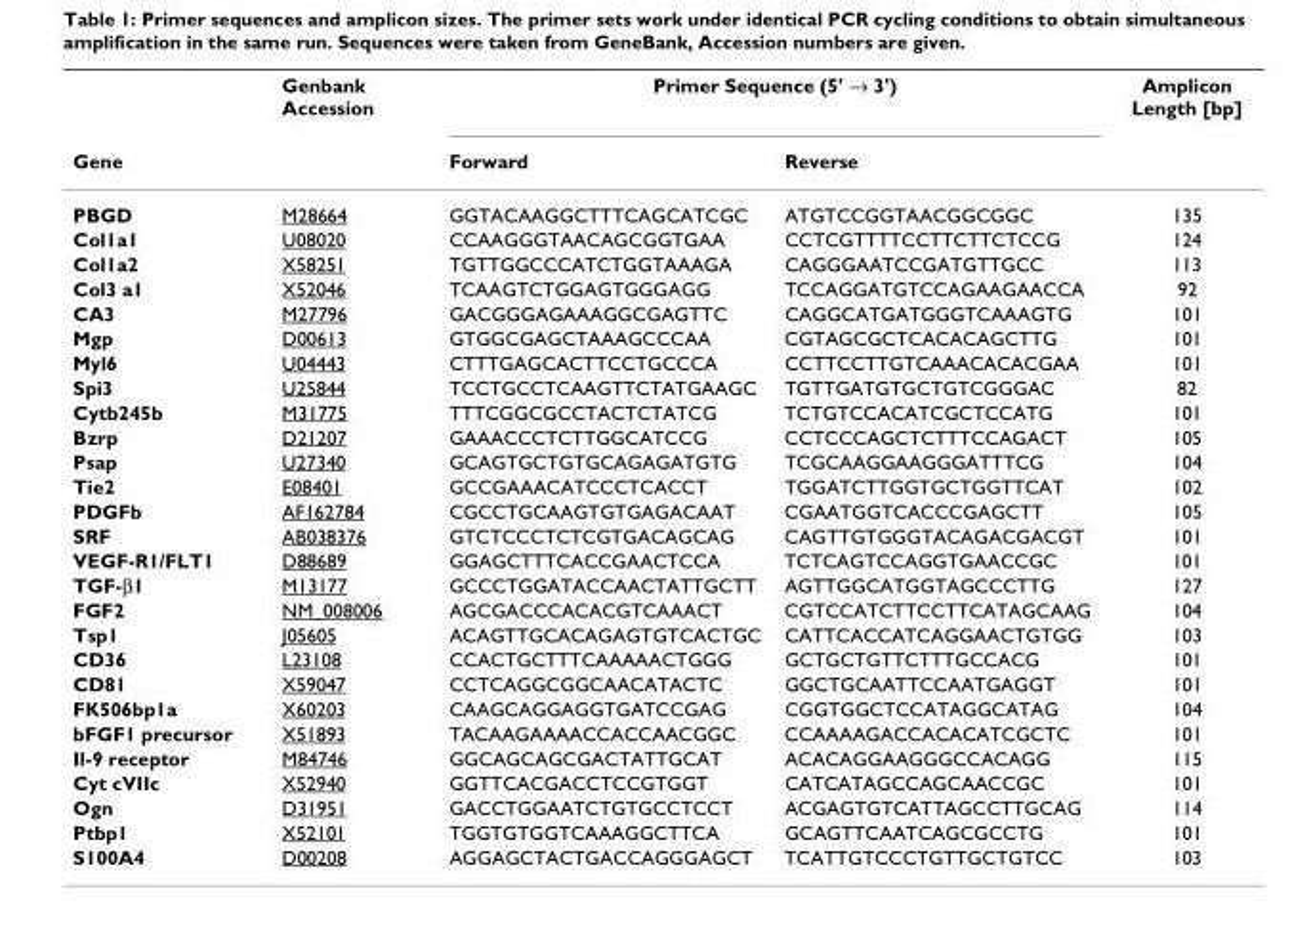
<table><thead><tr><td rowspan="2">Gene</td><td rowspan="2">Genbank Accession</td><td colspan="2">Primer Sequence (5&#x27; → 3&#x27;)</td><td rowspan="2">Amplicon Length [bp]</td></tr><tr><td>Forward</td><td>Reverse</td></tr></thead><tbody><tr><td>PBGD</td><td>M28664</td><td>GGTACAAGGCTTTCAGCATCGC</td><td>ATGTCCGGTAACGGCGGC</td><td>135</td></tr><tr><td>Col1a1</td><td>U08020</td><td>CCAAGGGTAACAGCGGTGAA</td><td>CCTCGTTTTCCTTCTTCTCCG</td><td>124</td></tr><tr><td>Col1a2</td><td>X58251</td><td>TGTTGGCCCATCTGGTAAAGA</td><td>CAGGGAATCCGATGTTGCC</td><td>113</td></tr><tr><td>Col3 a1</td><td>X52046</td><td>TCAAGTCTGGAGTGGGAGG</td><td>TCCAGGATGTCCAGAAGAACCA</td><td>92</td></tr><tr><td>CA3</td><td>M27796</td><td>GACGGGAGAAAGGCGAGTTC</td><td>CAGGCATGATGGGTCAAAGTG</td><td>101</td></tr><tr><td>Mgp</td><td>D00613</td><td>GTGGCGAGCTAAAGCCCAA</td><td>CGTAGCGCTCACACAGCTTG</td><td>101</td></tr><tr><td>Myl6</td><td>U04443</td><td>CTTTGAGCACTTCCTGCCCA</td><td>CCTTCCTTGTCAAACACACGAA</td><td>101</td></tr><tr><td>Spi3</td><td>U25844</td><td>TCCTGCCTCAAGTTCTATGAAGC</td><td>TGTTGATGTGCTGTCGGGAC</td><td>82</td></tr><tr><td>Cytb245b</td><td>M31775</td><td>TTTCGGCGCCTACTCTATCG</td><td>TCTGTCCACATCGCTCCATG</td><td>101</td></tr><tr><td>Bzrp</td><td>D21207</td><td>GAAACCCTCTTGGCATCCG</td><td>CCTCCCAGCTCTTTCCAGACT</td><td>105</td></tr><tr><td>Psap</td><td>U27340</td><td>GCAGTGCTGTGCAGAGATGTG</td><td>TCGCAAGGAAGGGATTTCG</td><td>104</td></tr><tr><td>Tie2</td><td>E08401</td><td>GCCGAAACATCCCTCACCT</td><td>TGGATCTTGGTGCTGGTTCAT</td><td>102</td></tr><tr><td>PDGFb</td><td>AF162784</td><td>CGCCTGCAAGTGTGAGACAAT</td><td>CGAATGGTCACCCGAGCTT</td><td>105</td></tr><tr><td>SRF</td><td>AB038376</td><td>GTCTCCCTCTCGTGACAGCAG</td><td>CAGTTGTGGGTACAGACGACGT</td><td>101</td></tr><tr><td>VEGF-R1/FLT1</td><td>D88689</td><td>GGAGCTTTCACCGAACTCCA</td><td>TCTCAGTCCAGGTGAACCGC</td><td>101</td></tr><tr><td>TGF-β1</td><td>M13177</td><td>GCCCTGGATACCAACTATTGCTT</td><td>AGTTGGCATGGTAGCCCTTG</td><td>127</td></tr><tr><td>FGF2</td><td>NM_008006</td><td>AGCGACCCACACGTCAAACT</td><td>CGTCCATCTTCCTTCATAGCAAG</td><td>104</td></tr><tr><td>Tsp1</td><td>J05605</td><td>ACAGTTGCACAGAGTGTCACTGC</td><td>CATTCACCATCAGGAACTGTGG</td><td>103</td></tr><tr><td>CD36</td><td>L23108</td><td>CCACTGCTTTCAAAAACTGGG</td><td>GCTGCTGTTCTTTGCCACG</td><td>101</td></tr><tr><td>CD81</td><td>X59047</td><td>CCTCAGGCGGCAACATACTC</td><td>GGCTGCAATTCCAATGAGGT</td><td>101</td></tr><tr><td>FK506bp1a</td><td>X60203</td><td>CAAGCAGGAGGTGATCCGAG</td><td>CGGTGGCTCCATAGGCATAG</td><td>104</td></tr><tr><td>bFGF1 precursor</td><td>X51893</td><td>TACAAGAAAACCACCAACGGC</td><td>CCAAAAGACCACACATCGCTC</td><td>101</td></tr><tr><td>Il-9 receptor</td><td>M84746</td><td>GGCAGCAGCGACTATTGCAT</td><td>ACACAGGAAGGGCCACAGG</td><td>115</td></tr><tr><td>Cyt cVIIc</td><td>X52940</td><td>GGTTCACGACCTCCGTGGT</td><td>CATCATAGCCAGCAACCGC</td><td>101</td></tr><tr><td>Ogn</td><td>D31951</td><td>GACCTGGAATCTGTGCCTCCT</td><td>ACGAGTGTCATTAGCCTTGCAG</td><td>114</td></tr><tr><td>Ptbp1</td><td>X52101</td><td>TGGTGTGGTCAAAGGCTTCA</td><td>GCAGTTCAATCAGCGCCTG</td><td>101</td></tr><tr><td>S100A4</td><td>D00208</td><td>AGGAGCTACTGACCAGGGAGCT</td><td>TCATTGTCCCTGTTGCTGTCC</td><td>103</td></tr></tbody></table>